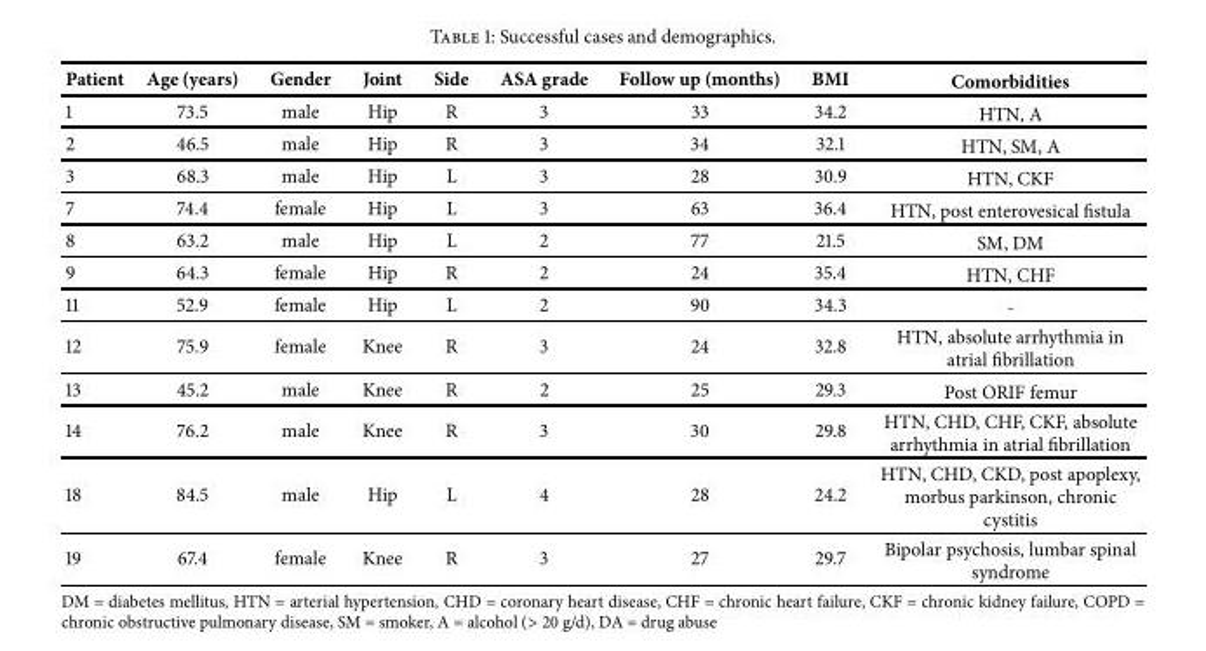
<table><thead><tr><td>Patient</td><td>Age (years)</td><td>Gender</td><td>Joint</td><td>Side</td><td>ASA grade</td><td>Follow up (months)</td><td>BMI</td><td>Comorbidities</td></tr></thead><tbody><tr><td>1</td><td>73.5</td><td>male</td><td>Hip</td><td>R</td><td>3</td><td>33</td><td>34.2</td><td>HTN, A</td></tr><tr><td>2</td><td>46.5</td><td>male</td><td>Hip</td><td>R</td><td>3</td><td>34</td><td>32.1</td><td>HTN, SM, A</td></tr><tr><td>3</td><td>68.3</td><td>male</td><td>Hip</td><td>L</td><td>3</td><td>28</td><td>30.9</td><td>HTN, CKF</td></tr><tr><td>7</td><td>74.4</td><td>female</td><td>Hip</td><td>L</td><td>3</td><td>63</td><td>36.4</td><td>HTN, post enterovesical fistula</td></tr><tr><td>8</td><td>63.2</td><td>male</td><td>Hip</td><td>L</td><td>2</td><td>77</td><td>21.5</td><td>SM, DM</td></tr><tr><td>9</td><td>64.3</td><td>female</td><td>Hip</td><td>R</td><td>2</td><td>24</td><td>35.4</td><td>HTN, CHF</td></tr><tr><td>11</td><td>52.9</td><td>female</td><td>Hip</td><td>L</td><td>2</td><td>90</td><td>34.3</td><td>-</td></tr><tr><td>12</td><td>75.9</td><td>female</td><td>Knee</td><td>R</td><td>3</td><td>24</td><td>32.8</td><td>HTN, absolute arrhythmia in atrial fibrillation</td></tr><tr><td>13</td><td>45.2</td><td>male</td><td>Knee</td><td>R</td><td>2</td><td>25</td><td>29.3</td><td>Post ORIF femur</td></tr><tr><td>14</td><td>76.2</td><td>male</td><td>Knee</td><td>R</td><td>3</td><td>30</td><td>29.8</td><td>HTN, CHD, CHF, CKF, absolute arrhythmia in atrial fibrillation</td></tr><tr><td>18</td><td>84.5</td><td>male</td><td>Hip</td><td>L</td><td>4</td><td>28</td><td>24.2</td><td>HTN, CHD, CKD, post apoplexy, morbus parkinson, chronic cystitis</td></tr><tr><td>19</td><td>67.4</td><td>female</td><td>Knee</td><td>R</td><td>3</td><td>27</td><td>29.7</td><td>Bipolar psychosis, lumbar spinal syndrome</td></tr></tbody></table>